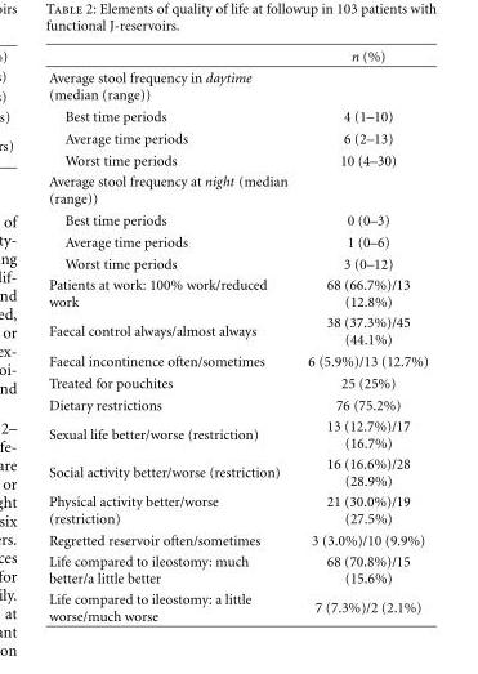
<table><thead><tr><td></td><td>n (%)</td></tr></thead><tbody><tr><td colspan="2">Average stool frequency in daytime (median (range))</td></tr><tr><td>Best time periods</td><td>4 (1–10)</td></tr><tr><td>Average time periods</td><td>6 (2–13)</td></tr><tr><td>Worst time periods</td><td>10 (4–30)</td></tr><tr><td colspan="2">Average stool frequency at night (median (range))</td></tr><tr><td>Best time periods</td><td>0 (0–3)</td></tr><tr><td>Average time periods</td><td>1 (0–6)</td></tr><tr><td>Worst time periods</td><td>3 (0–12)</td></tr><tr><td>Patients at work: 100% work/reduced work</td><td>68 (66.7%)/13 (12.8%)</td></tr><tr><td>Faecal control always/almost always</td><td>38 (37.3%)/45 (44.1%)</td></tr><tr><td>Faecal incontinence often/sometimes</td><td>6 (5.9%)/13 (12.7%)</td></tr><tr><td>Treated for pouchites</td><td>25 (25%)</td></tr><tr><td>Dietary restrictions</td><td>76 (75.2%)</td></tr><tr><td>Sexual life better/worse (restriction)</td><td>13 (12.7%)/17 (16.7%)</td></tr><tr><td>Social activity better/worse (restriction)</td><td>16 (16.6%)/28 (28.9%)</td></tr><tr><td>Physical activity better/worse (restriction)</td><td>21 (30.0%)/19 (27.5%)</td></tr><tr><td>Regretted reservoir often/sometimes</td><td>3 (3.0%)/10 (9.9%)</td></tr><tr><td>Life compared to ileostomy: much better/a little better</td><td>68 (70.8%)/15 (15.6%)</td></tr><tr><td>Life compared to ileostomy: a little worse/much worse</td><td>7 (7.3%)/2 (2.1%)</td></tr></tbody></table>